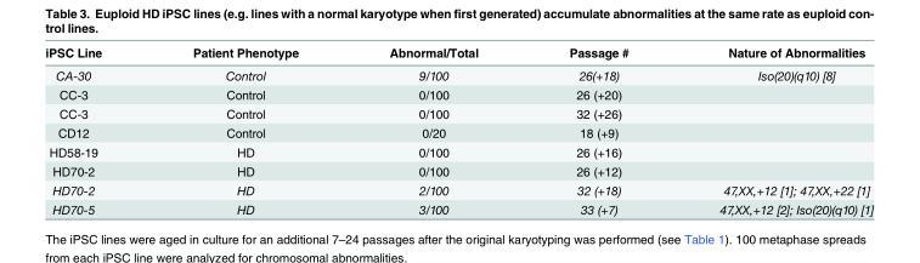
<table><thead><tr><td>iPSC Line</td><td>Patient Phenotype</td><td>Abnormal/Total</td><td>Passage #</td><td>Nature of Abnormalities</td></tr></thead><tbody><tr><td>CA-30</td><td>Control</td><td>9/100</td><td>26(+18)</td><td>Iso(20)(q10) [8]</td></tr><tr><td>CC-3</td><td>Control</td><td>0/100</td><td>26 (+20)</td><td></td></tr><tr><td>CC-3</td><td>Control</td><td>0/100</td><td>32 (+26)</td><td></td></tr><tr><td>CD12</td><td>Control</td><td>0/20</td><td>18 (+9)</td><td></td></tr><tr><td>HD58-19</td><td>HD</td><td>0/100</td><td>26 (+16)</td><td></td></tr><tr><td>HD70-2</td><td>HD</td><td>0/100</td><td>26 (+12)</td><td></td></tr><tr><td>HD70-2</td><td>HD</td><td>2/100</td><td>32 (+18)</td><td>47,XX,+12 [1]; 47,XX,+22 [1]</td></tr><tr><td>HD70-5</td><td>HD</td><td>3/100</td><td>33 (+7)</td><td>47,XX,+12 [2]; Iso(20)(q10) [1]</td></tr></tbody></table>